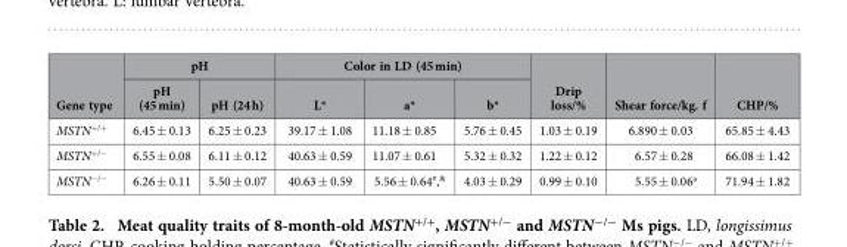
<table><thead><tr><td rowspan="2">Gene type</td><td colspan="2">pH</td><td colspan="3">Color in LD (45 min)</td><td rowspan="2">Drip loss/%</td><td rowspan="2">Shear force/kg. f</td><td rowspan="2">CHP/%</td></tr><tr><td>pH (45 min)</td><td>pH (24 h)</td><td>L*</td><td>a*</td><td>b*</td></tr></thead><tbody><tr><td>MSTN<sup>+/+</sup></td><td>6.45 ± 0.13</td><td>6.25 ± 0.23</td><td>39.17 ± 1.08</td><td>11.18 ± 0.85</td><td>5.76 ± 0.45</td><td>1.03 ± 0.19</td><td>6.890 ± 0.03</td><td>65.85 ± 4.43</td></tr><tr><td>MSTN<sup>+/−</sup></td><td>6.55 ± 0.08</td><td>6.11 ± 0.12</td><td>40.63 ± 0.59</td><td>11.07 ± 0.61</td><td>5.32 ± 0.32</td><td>1.22 ± 0.12</td><td>6.57 ± 0.28</td><td>66.08 ± 1.42</td></tr><tr><td>MSTN<sup>−/−</sup></td><td>6.26 ± 0.11</td><td>5.50 ± 0.07</td><td>40.63 ± 0.59</td><td>5.56 ± 0.64#,&amp;</td><td>4.03 ± 0.29</td><td>0.99 ± 0.10</td><td>5.55 ± 0.06<sup>a</sup></td><td>71.94 ± 1.82</td></tr></tbody></table>